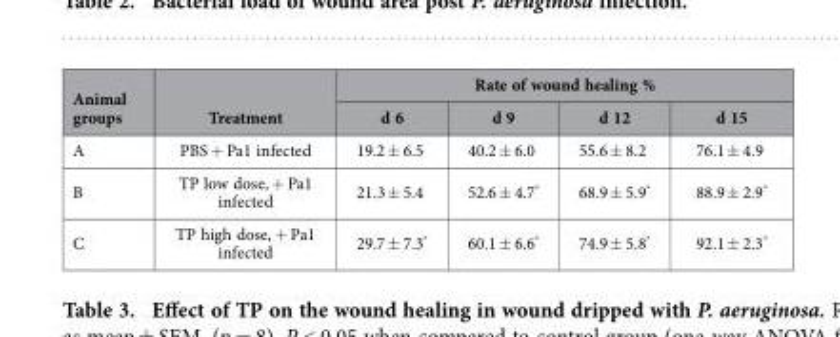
<table><thead><tr><td rowspan="2">Animal groups</td><td rowspan="2">Treatment</td><td colspan="4">Rate of wound healing %</td></tr><tr><td>d 6</td><td>d 9</td><td>d 12</td><td>d 15</td></tr></thead><tbody><tr><td>A</td><td>PBS + Pa1 infected</td><td>19.2 ± 6.5</td><td>40.2 ± 6.0</td><td>55.6 ± 8.2</td><td>76.1 ± 4.9</td></tr><tr><td>B</td><td>TP low dose, + Pa1 infected</td><td>21.3 ± 5.4</td><td>52.6 ± 4.7*</td><td>68.9 ± 5.9*</td><td>88.9 ± 2.9*</td></tr><tr><td>C</td><td>TP high dose, + Pa1 infected</td><td>29.7 ± 7.3*</td><td>60.1 ± 6.6*</td><td>74.9 ± 5.8*</td><td>92.1 ± 2.3*</td></tr></tbody></table>